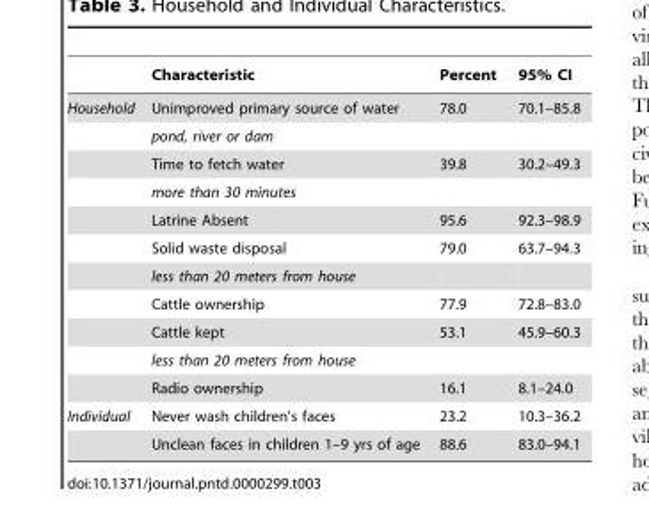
<table><thead><tr><td></td><td>Characteristic</td><td>Percent</td><td>95% CI</td></tr></thead><tbody><tr><td rowspan="11">Household</td><td>Unimproved primary source of water</td><td>78.0</td><td>70.1–85.8</td></tr><tr><td>pond, river or dam</td><td></td><td></td></tr><tr><td>Time to fetch water</td><td>39.8</td><td>30.2–49.3</td></tr><tr><td>more than 30 minutes</td><td></td><td></td></tr><tr><td>Latrine Absent</td><td>95.6</td><td>92.3–98.9</td></tr><tr><td>Solid waste disposal</td><td>79.0</td><td>63.7–94.3</td></tr><tr><td>less than 20 meters from house</td><td></td><td></td></tr><tr><td>Cattle ownership</td><td>77.9</td><td>72.8–83.0</td></tr><tr><td>Cattle kept</td><td>53.1</td><td>45.9–60.3</td></tr><tr><td>less than 20 meters from house</td><td></td><td></td></tr><tr><td>Radio ownership</td><td>16.1</td><td>8.1–24.0</td></tr><tr><td rowspan="2">Individual</td><td>Never wash children’s faces</td><td>23.2</td><td>10.3–36.2</td></tr><tr><td>Unclean faces in children 1–9 yrs of age</td><td>88.6</td><td>83.0–94.1</td></tr></tbody></table>